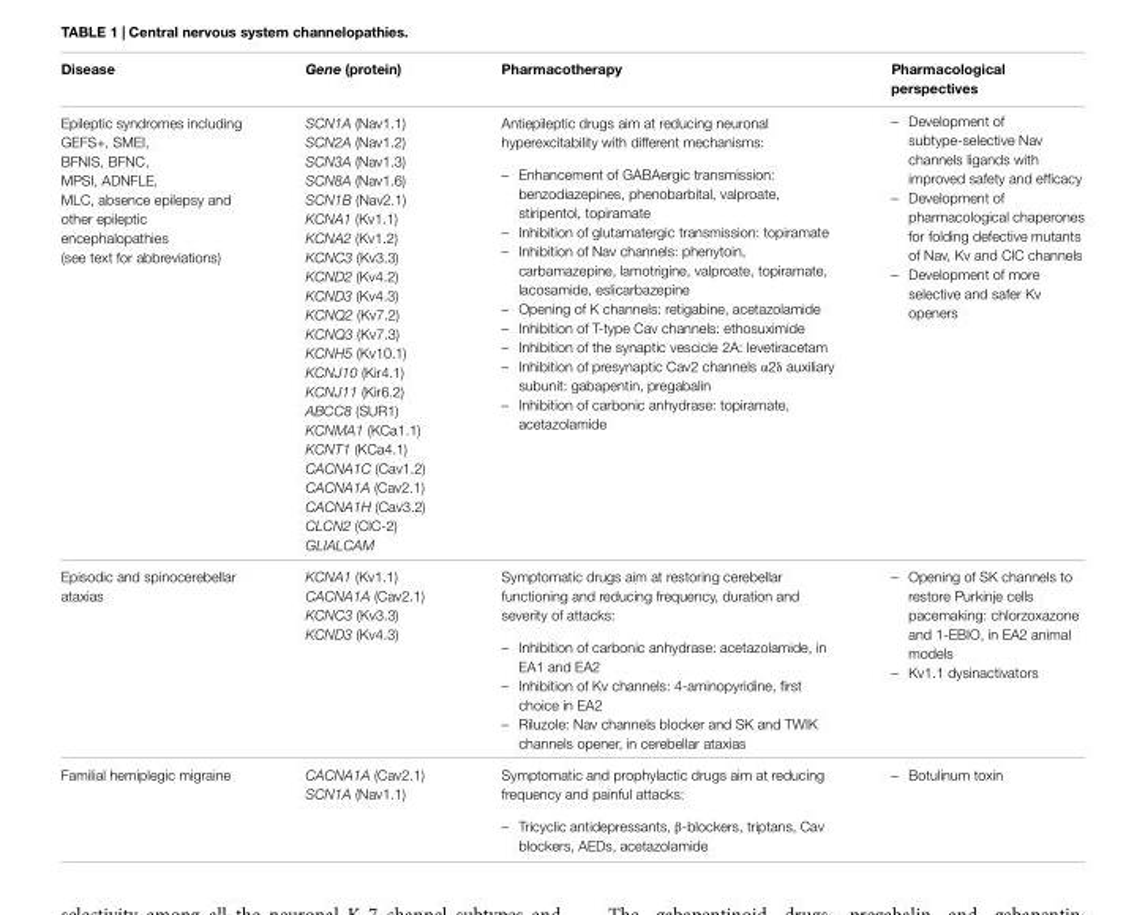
<table><thead><tr><td>Disease</td><td>Gene (protein)</td><td>Pharmacotherapy</td><td>Pharmacological perspectives</td></tr></thead><tbody><tr><td>Epileptic syndromes including GEFS+, SMEI, BFNIS, BFNC, MPSI, ADNFLE, MLC, absence epilepsy and other epileptic encephalopathies (see text for abbreviations)</td><td>SCN1A (Nav1.1) SCN2A (Nav1.2) SCN3A (Nav1.3) SCN8A (Nav1.6) SCN1B (Nav2.1) KCNA1 (Kv1.1) KCNA2 (Kv1.2) KCNC3 (Kv3.3) KCND2 (Kv4.2) KCND3 (Kv4.3) KCNQ2 (Kv7.2) KCNQ3 (Kv7.3) KCNH5 (Kv10.1) KCNJ10 (Kir4.1) KCNJ11 (Kir6.2) ABCC8 (SUR1) KCNMA1 (KCa1.1) KCNT1 (KCa4.1) CACNA1C (Cav1.2) CACNA1A (Cav2.1) CACNA1H (Cav3.2) CLCN2 (ClC-2) GLIALCAM</td><td>Antiepileptic drugs aim at reducing neuronal hyperexcitability with different mechanisms: – Enhancement of GABAergic transmission: benzodiazepines, phenobarbital, valproate, stiripentol, topiramate – Inhibition of glutamatergic transmission: topiramate – Inhibition of Nav channels: phenytoin, carbamazepine, lamotrigine, valproate, topiramate, lacosamide, eslicarbazepine – Opening of K channels: retigabine, acetazolamide – Inhibition of T-type Cav channels: ethosuximide – Inhibition of the synaptic vescicle 2A: levetiracetam – Inhibition of presynaptic Cav2 channels α2δ auxiliary subunit: gabapentin, pregabalin – Inhibition of carbonic anhydrase: topiramate, acetazolamide</td><td>– Development of subtype-selective Nav channels ligands with improved safety and efficacy – Development of pharmacological chaperones for folding defective mutants of Nav, Kv and ClC channels – Development of more selective and safer Kv openers</td></tr><tr><td>Episodic and spinocerebellar ataxias</td><td>KCNA1 (Kv1.1) CACNA1A (Cav2.1) KCNC3 (Kv3.3) KCND3 (Kv4.3)</td><td>Symptomatic drugs aim at restoring cerebellar functioning and reducing frequency, duration and severity of attacks: – Inhibition of carbonic anhydrase: acetazolamide, in EA1 and EA2 – Inhibition of Kv channels: 4-aminopyridine, first choice in EA2 – Riluzole: Nav channels blocker and SK and TWIK channels opener, in cerebellar ataxias</td><td>– Opening of SK channels to restore Purkinje cells pacemaking: chlorzoxazone and 1-EBIO, in EA2 animal models – Kv1.1 dysinactivators</td></tr><tr><td>Familial hemiplegic migraine</td><td>CACNA1A (Cav2.1) SCN1A (Nav1.1)</td><td>Symptomatic and prophylactic drugs aim at reducing frequency and painful attacks: – Tricyclic antidepressants, β-blockers, triptans, Cav blockers, AEDs, acetazolamide</td><td>– Botulinum toxin</td></tr></tbody></table>